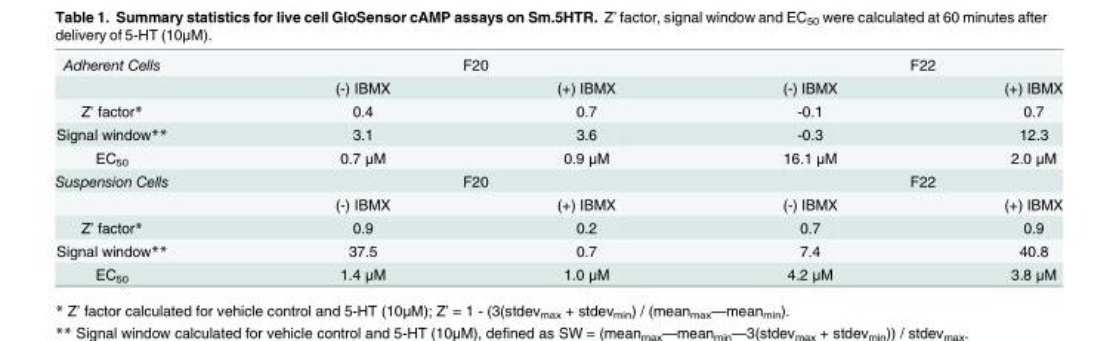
<table><tbody><tr><td rowspan="2">Adherent Cells</td><td colspan="2">F20</td><td colspan="2">F22</td></tr><tr><td>(-) IBMX</td><td>(+) IBMX</td><td>(-) IBMX</td><td>(+) IBMX</td></tr><tr><td>Z’ factor*</td><td>0.4</td><td>0.7</td><td>-0.1</td><td>0.7</td></tr><tr><td>Signal window**</td><td>3.1</td><td>3.6</td><td>-0.3</td><td>12.3</td></tr><tr><td>EC<sub>50</sub></td><td>0.7 μM</td><td>0.9 μM</td><td>16.1 μM</td><td>2.0 μM</td></tr><tr><td rowspan="2">Suspension Cells</td><td colspan="2">F20</td><td colspan="2">F22</td></tr><tr><td>(-) IBMX</td><td>(+) IBMX</td><td>(-) IBMX</td><td>(+) IBMX</td></tr><tr><td>Z’ factor*</td><td>0.9</td><td>0.2</td><td>0.7</td><td>0.9</td></tr><tr><td>Signal window**</td><td>37.5</td><td>0.7</td><td>7.4</td><td>40.8</td></tr><tr><td>EC<sub>50</sub></td><td>1.4 μM</td><td>1.0 μM</td><td>4.2 μM</td><td>3.8 μM</td></tr></tbody></table>